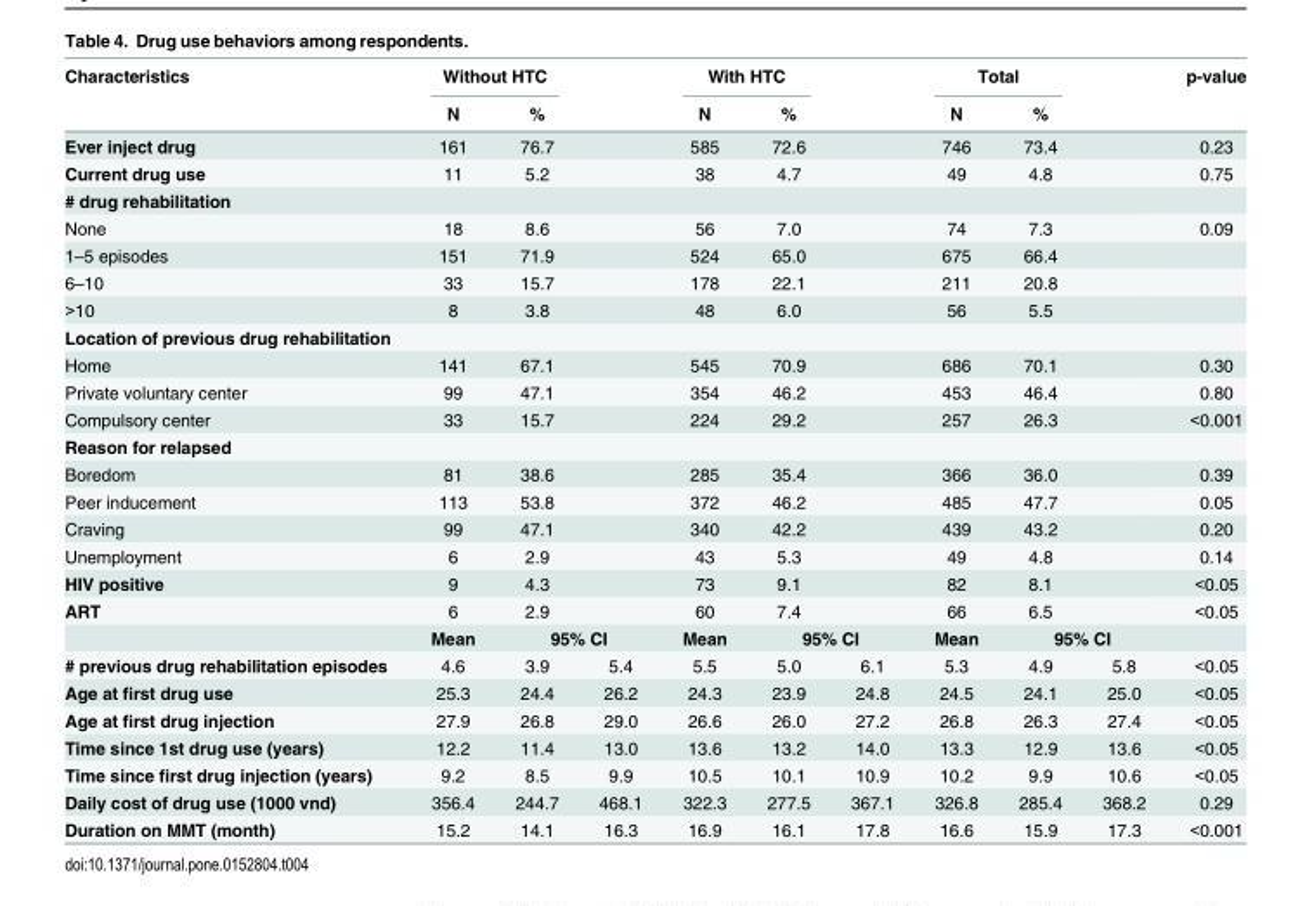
<table><thead><tr><td rowspan="2">Characteristics</td><td colspan="2">Without HTC</td><td rowspan="2"></td><td colspan="2">With HTC</td><td rowspan="2"></td><td colspan="2">Total</td><td rowspan="2"></td><td rowspan="2">p-value</td></tr><tr><td>N</td><td>%</td><td>N</td><td>%</td><td>N</td><td>%</td></tr></thead><tbody><tr><td>Ever inject drug</td><td>161</td><td>76.7</td><td></td><td>585</td><td>72.6</td><td></td><td>746</td><td>73.4</td><td></td><td>0.23</td></tr><tr><td>Current drug use</td><td>11</td><td>5.2</td><td></td><td>38</td><td>4.7</td><td></td><td>49</td><td>4.8</td><td></td><td>0.75</td></tr><tr><td colspan="11"># drug rehabilitation</td></tr><tr><td>None</td><td>18</td><td>8.6</td><td></td><td>56</td><td>7.0</td><td></td><td>74</td><td>7.3</td><td></td><td>0.09</td></tr><tr><td>1–5 episodes</td><td>151</td><td>71.9</td><td></td><td>524</td><td>65.0</td><td></td><td>675</td><td>66.4</td><td></td><td></td></tr><tr><td>6–10</td><td>33</td><td>15.7</td><td></td><td>178</td><td>22.1</td><td></td><td>211</td><td>20.8</td><td></td><td></td></tr><tr><td>&gt;10</td><td>8</td><td>3.8</td><td></td><td>48</td><td>6.0</td><td></td><td>56</td><td>5.5</td><td></td><td></td></tr><tr><td colspan="11">Location of previous drug rehabilitation</td></tr><tr><td>Home</td><td>141</td><td>67.1</td><td></td><td>545</td><td>70.9</td><td></td><td>686</td><td>70.1</td><td></td><td>0.30</td></tr><tr><td>Private voluntary center</td><td>99</td><td>47.1</td><td></td><td>354</td><td>46.2</td><td></td><td>453</td><td>46.4</td><td></td><td>0.80</td></tr><tr><td>Compulsory center</td><td>33</td><td>15.7</td><td></td><td>224</td><td>29.2</td><td></td><td>257</td><td>26.3</td><td></td><td>&lt;0.001</td></tr><tr><td colspan="11">Reason for relapsed</td></tr><tr><td>Boredom</td><td>81</td><td>38.6</td><td></td><td>285</td><td>35.4</td><td></td><td>366</td><td>36.0</td><td></td><td>0.39</td></tr><tr><td>Peer inducement</td><td>113</td><td>53.8</td><td></td><td>372</td><td>46.2</td><td></td><td>485</td><td>47.7</td><td></td><td>0.05</td></tr><tr><td>Craving</td><td>99</td><td>47.1</td><td></td><td>340</td><td>42.2</td><td></td><td>439</td><td>43.2</td><td></td><td>0.20</td></tr><tr><td>Unemployment</td><td>6</td><td>2.9</td><td></td><td>43</td><td>5.3</td><td></td><td>49</td><td>4.8</td><td></td><td>0.14</td></tr><tr><td>HIV positive</td><td>9</td><td>4.3</td><td></td><td>73</td><td>9.1</td><td></td><td>82</td><td>8.1</td><td></td><td>&lt;0.05</td></tr><tr><td rowspan="2">ART</td><td>6</td><td>2.9</td><td></td><td>60</td><td>7.4</td><td></td><td>66</td><td>6.5</td><td></td><td>&lt;0.05</td></tr><tr><td>Mean</td><td colspan="2">95% CI</td><td>Mean</td><td colspan="2">95% CI</td><td>Mean</td><td colspan="2">95% CI</td><td></td></tr><tr><td># previous drug rehabilitation episodes</td><td>4.6</td><td>3.9</td><td>5.4</td><td>5.5</td><td>5.0</td><td>6.1</td><td>5.3</td><td>4.9</td><td>5.8</td><td>&lt;0.05</td></tr><tr><td>Age at first drug use</td><td>25.3</td><td>24.4</td><td>26.2</td><td>24.3</td><td>23.9</td><td>24.8</td><td>24.5</td><td>24.1</td><td>25.0</td><td>&lt;0.05</td></tr><tr><td>Age at first drug injection</td><td>27.9</td><td>26.8</td><td>29.0</td><td>26.6</td><td>26.0</td><td>27.2</td><td>26.8</td><td>26.3</td><td>27.4</td><td>&lt;0.05</td></tr><tr><td>Time since 1st drug use (years)</td><td>12.2</td><td>11.4</td><td>13.0</td><td>13.6</td><td>13.2</td><td>14.0</td><td>13.3</td><td>12.9</td><td>13.6</td><td>&lt;0.05</td></tr><tr><td>Time since first drug injection (years)</td><td>9.2</td><td>8.5</td><td>9.9</td><td>10.5</td><td>10.1</td><td>10.9</td><td>10.2</td><td>9.9</td><td>10.6</td><td>&lt;0.05</td></tr><tr><td>Daily cost of drug use (1000 vnd)</td><td>356.4</td><td>244.7</td><td>468.1</td><td>322.3</td><td>277.5</td><td>367.1</td><td>326.8</td><td>285.4</td><td>368.2</td><td>0.29</td></tr><tr><td>Duration on MMT (month)</td><td>15.2</td><td>14.1</td><td>16.3</td><td>16.9</td><td>16.1</td><td>17.8</td><td>16.6</td><td>15.9</td><td>17.3</td><td>&lt;0.001</td></tr></tbody></table>